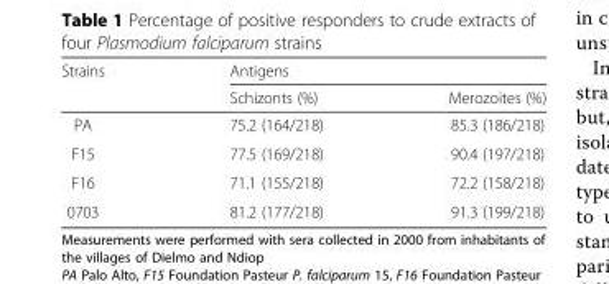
<table><thead><tr><td rowspan="2">Strains</td><td colspan="2">Antigens</td></tr><tr><td>Schizonts (%)</td><td>Merozoites (%)</td></tr></thead><tbody><tr><td>PA</td><td>75.2 (164/218)</td><td>85.3 (186/218)</td></tr><tr><td>F15</td><td>77.5 (169/218)</td><td>90.4 (197/218)</td></tr><tr><td>F16</td><td>71.1 (155/218)</td><td>72.2 (158/218)</td></tr><tr><td>0703</td><td>81.2 (177/218)</td><td>91.3 (199/218)</td></tr></tbody></table>